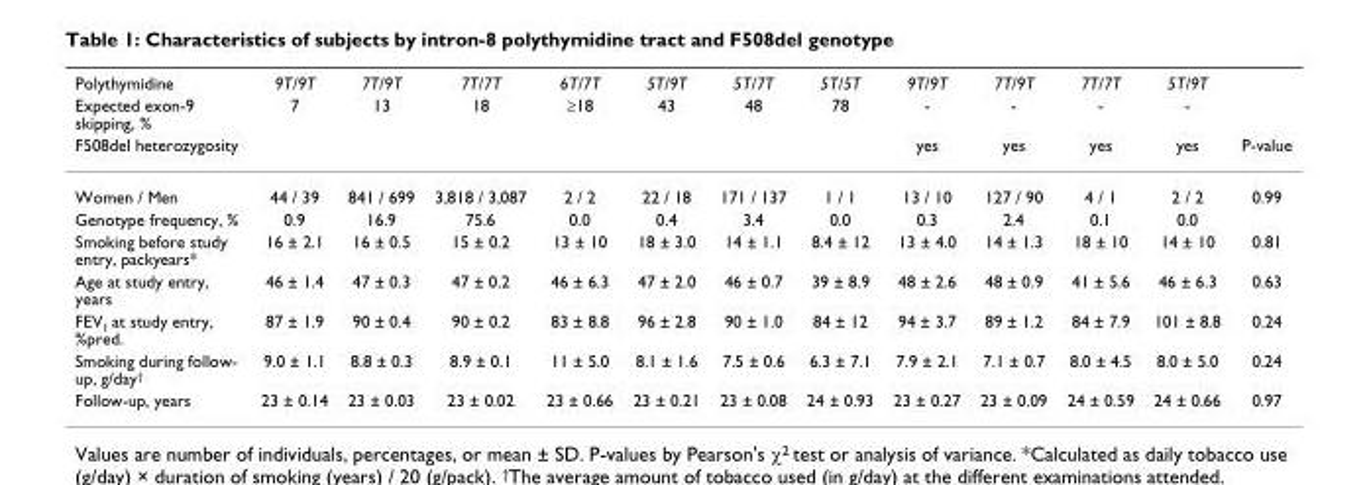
<table><thead><tr><td rowspan="3">Polythymidine Expected exon-9 skipping, % F508del heterozygosity</td><td rowspan="3">9T/9T 7</td><td rowspan="3">7T/9T 13</td><td rowspan="3">7T/7T 18</td><td rowspan="3">6T/7T ≥18</td><td rowspan="3">5T/9T 43</td><td rowspan="3">5T/7T 48</td><td rowspan="3">5T/5T 78</td><td rowspan="3">9T/9T - yes</td><td rowspan="3">7T/9T - yes</td><td rowspan="3">7T/7T - yes</td><td rowspan="3">5T/9T - yes</td><td rowspan="3">P-value</td></tr><tr></tr><tr></tr></thead><tbody><tr><td>Women / Men</td><td>44 / 39</td><td>841 / 699</td><td>3,818 / 3,087</td><td>2 / 2</td><td>22 / 18</td><td>171 / 137</td><td>1 / 1</td><td>13 / 10</td><td>127 / 90</td><td>4 / 1</td><td>2 / 2</td><td>0.99</td></tr><tr><td>Genotype frequency, %</td><td>0.9</td><td>16.9</td><td>75.6</td><td>0.0</td><td>0.4</td><td>3.4</td><td>0.0</td><td>0.3</td><td>2.4</td><td>0.1</td><td>0.0</td><td></td></tr><tr><td>Smoking before study entry, packyears*</td><td>16 ± 2.1</td><td>16 ± 0.5</td><td>15 ± 0.2</td><td>13 ± 10</td><td>18 ± 3.0</td><td>14 ± 1.1</td><td>8.4 ± 12</td><td>13 ± 4.0</td><td>14 ± 1.3</td><td>18 ± 10</td><td>14 ± 10</td><td>0.81</td></tr><tr><td>Age at study entry, years</td><td>46 ± 1.4</td><td>47 ± 0.3</td><td>47 ± 0.2</td><td>46 ± 6.3</td><td>47 ± 2.0</td><td>46 ± 0.7</td><td>39 ± 8.9</td><td>48 ± 2.6</td><td>48 ± 0.9</td><td>41 ± 5.6</td><td>46 ± 6.3</td><td>0.63</td></tr><tr><td>FEV<sub>1</sub> at study entry, %pred.</td><td>87 ± 1.9</td><td>90 ± 0.4</td><td>90 ± 0.2</td><td>83 ± 8.8</td><td>96 ± 2.8</td><td>90 ± 1.0</td><td>84 ± 12</td><td>94 ± 3.7</td><td>89 ± 1.2</td><td>84 ± 7.9</td><td>101 ± 8.8</td><td>0.24</td></tr><tr><td>Smoking during follow- up, g/day<sup>†</sup></td><td>9.0 ± 1.1</td><td>8.8 ± 0.3</td><td>8.9 ± 0.1</td><td>11 ± 5.0</td><td>8.1 ± 1.6</td><td>7.5 ± 0.6</td><td>6.3 ± 7.1</td><td>7.9 ± 2.1</td><td>7.1 ± 0.7</td><td>8.0 ± 4.5</td><td>8.0 ± 5.0</td><td>0.24</td></tr><tr><td>Follow-up, years</td><td>23 ± 0.14</td><td>23 ± 0.03</td><td>23 ± 0.02</td><td>23 ± 0.66</td><td>23 ± 0.21</td><td>23 ± 0.08</td><td>24 ± 0.93</td><td>23 ± 0.27</td><td>23 ± 0.09</td><td>24 ± 0.59</td><td>24 ± 0.66</td><td>0.97</td></tr></tbody></table>